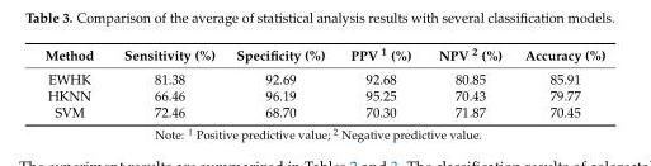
<table><thead><tr><td>Method</td><td>Sensitivity (%)</td><td>Specificity (%)</td><td>PPV <sup>1</sup> (%)</td><td>NPV <sup>2</sup> (%)</td><td>Accuracy (%)</td></tr></thead><tbody><tr><td>EWHK</td><td>81.38</td><td>92.69</td><td>92.68</td><td>80.85</td><td>85.91</td></tr><tr><td>HKNN</td><td>66.46</td><td>96.19</td><td>95.25</td><td>70.43</td><td>79.77</td></tr><tr><td>SVM</td><td>72.46</td><td>68.70</td><td>70.30</td><td>71.87</td><td>70.45</td></tr></tbody></table>